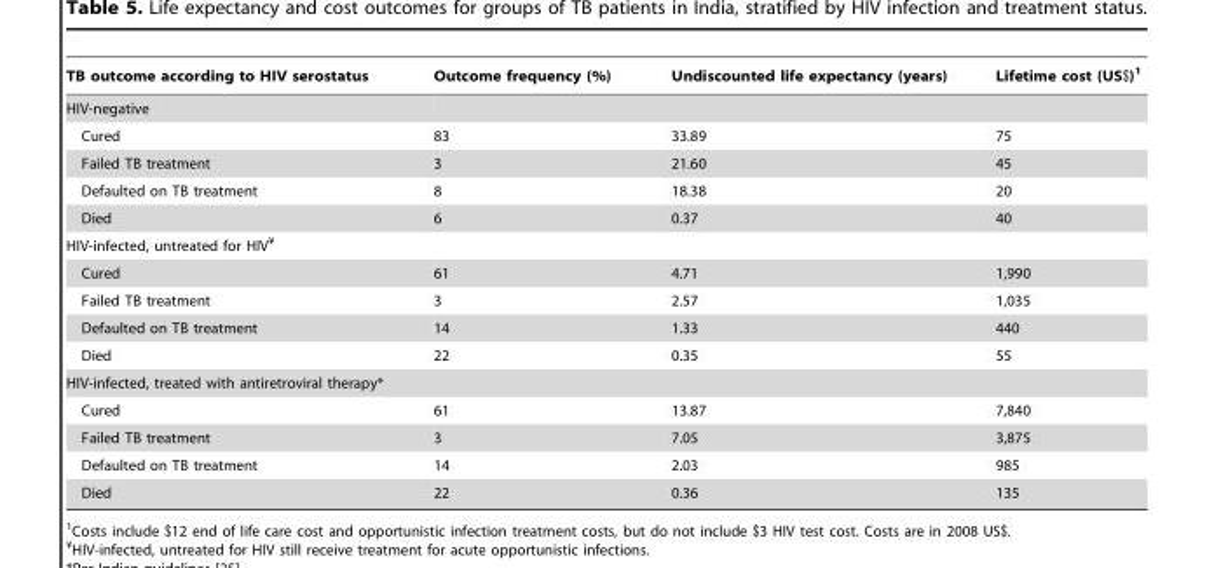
<table><thead><tr><td>TB outcome according to HIV serostatus</td><td>Outcome frequency (%)</td><td>Undiscounted life expectancy (years)</td><td>Lifetime cost (US$)<sup>1</sup></td></tr></thead><tbody><tr><td colspan="4">HIV-negative</td></tr><tr><td>Cured</td><td>83</td><td>33.89</td><td>75</td></tr><tr><td>Failed TB treatment</td><td>3</td><td>21.60</td><td>45</td></tr><tr><td>Defaulted on TB treatment</td><td>8</td><td>18.38</td><td>20</td></tr><tr><td>Died</td><td>6</td><td>0.37</td><td>40</td></tr><tr><td colspan="4">HIV-infected, untreated for HIV¥</td></tr><tr><td>Cured</td><td>61</td><td>4.71</td><td>1,990</td></tr><tr><td>Failed TB treatment</td><td>3</td><td>2.57</td><td>1,035</td></tr><tr><td>Defaulted on TB treatment</td><td>14</td><td>1.33</td><td>440</td></tr><tr><td>Died</td><td>22</td><td>0.35</td><td>55</td></tr><tr><td colspan="4">HIV-infected, treated with antiretroviral therapy*</td></tr><tr><td>Cured</td><td>61</td><td>13.87</td><td>7,840</td></tr><tr><td>Failed TB treatment</td><td>3</td><td>7.05</td><td>3,875</td></tr><tr><td>Defaulted on TB treatment</td><td>14</td><td>2.03</td><td>985</td></tr><tr><td>Died</td><td>22</td><td>0.36</td><td>135</td></tr></tbody></table>